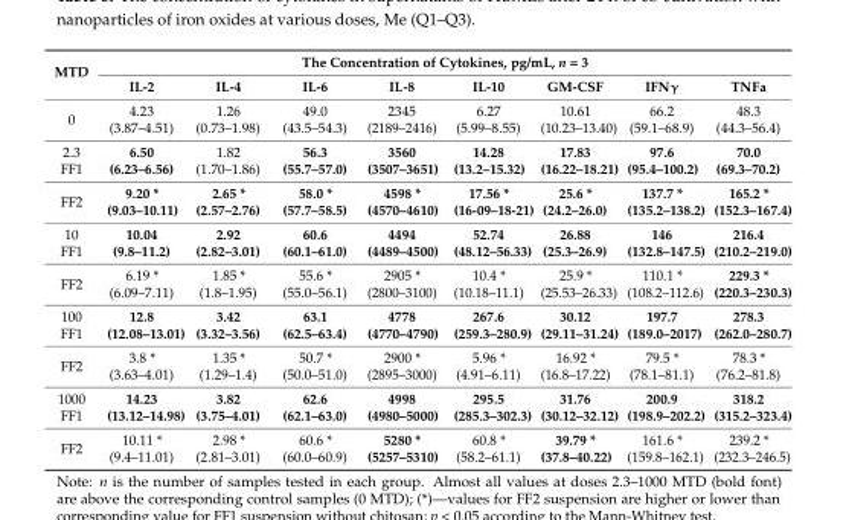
<table><thead><tr><td rowspan="2">MTD</td><td colspan="8">The Concentration of Cytokines, pg/mL, n = 3</td></tr><tr><td>IL-2</td><td>IL-4</td><td>IL-6</td><td>IL-8</td><td>IL-10</td><td>GM-CSF</td><td>IFNγ</td><td>TNFa</td></tr></thead><tbody><tr><td>0</td><td>4.23 (3.87–4.51)</td><td>1.26 (0.73–1.98)</td><td>49.0 (43.5–54.3)</td><td>2345 (2189–2416)</td><td>6.27 (5.99–8.55)</td><td>10.61 (10.23–13.40)</td><td>66.2 (59.1–68.9)</td><td>48.3 (44.3–56.4)</td></tr><tr><td>2.3 FF1</td><td>6.50 (6.23–6.56)</td><td>1.82 (1.70–1.86)</td><td>56.3 (55.7–57.0)</td><td>3560 (3507–3651)</td><td>14.28 (13.2–15.32)</td><td>17.83 (16.22–18.21)</td><td>97.6 (95.4–100.2)</td><td>70.0 (69.3–70.2)</td></tr><tr><td>FF2</td><td>9.20 * (9.03–10.11)</td><td>2.65 * (2.57–2.76)</td><td>58.0 * (57.7–58.5)</td><td>4598 * (4570–4610)</td><td>17.56 * (16-09–18-21)</td><td>25.6 * (24.2–26.0)</td><td>137.7 * (135.2–138.2)</td><td>165.2 * (152.3–167.4)</td></tr><tr><td>10 FF1</td><td>10.04 (9.8–11.2)</td><td>2.92 (2.82–3.01)</td><td>60.6 (60.1–61.0)</td><td>4494 (4489–4500)</td><td>52.74 (48.12–56.33)</td><td>26.88 (25.3–26.9)</td><td>146 (132.8–147.5)</td><td>216.4 (210.2–219.0)</td></tr><tr><td>FF2</td><td>6.19 * (6.09–7.11)</td><td>1.85 * (1.8–1.95)</td><td>55.6 * (55.0–56.1)</td><td>2905 * (2800–3100)</td><td>10.4 * (10.18–11.1)</td><td>25.9 * (25.53–26.33)</td><td>110.1 * (108.2–112.6)</td><td>229.3 * (220.3–230.3)</td></tr><tr><td>100 FF1</td><td>12.8 (12.08–13.01)</td><td>3.42 (3.32–3.56)</td><td>63.1 (62.5–63.4)</td><td>4778 (4770–4790)</td><td>267.6 (259.3–280.9)</td><td>30.12 (29.11–31.24)</td><td>197.7 (189.0–2017)</td><td>278.3 (262.0–280.7)</td></tr><tr><td>FF2</td><td>3.8 * (3.63–4.01)</td><td>1.35 * (1.29–1.4)</td><td>50.7 * (50.0–51.0)</td><td>2900 * (2895–3000)</td><td>5.96 * (4.91–6.11)</td><td>16.92 * (16.8–17.22)</td><td>79.5 * (78.1–81.1)</td><td>78.3 * (76.2–81.8)</td></tr><tr><td>1000 FF1</td><td>14.23 (13.12–14.98)</td><td>3.82 (3.75–4.01)</td><td>62.6 (62.1–63.0)</td><td>4998 (4980–5000)</td><td>295.5 (285.3–302.3)</td><td>31.76 (30.12–32.12)</td><td>200.9 (198.9–202.2)</td><td>318.2 (315.2–323.4)</td></tr><tr><td>FF2</td><td>10.11 * (9.4–11.01)</td><td>2.98 * (2.81–3.01)</td><td>60.6 * (60.0–60.9)</td><td>5280 * (5257–5310)</td><td>60.8 * (58.2–61.1)</td><td>39.79 * (37.8–40.22)</td><td>161.6 * (159.8–162.1)</td><td>239.2 * (232.3–246.5)</td></tr></tbody></table>